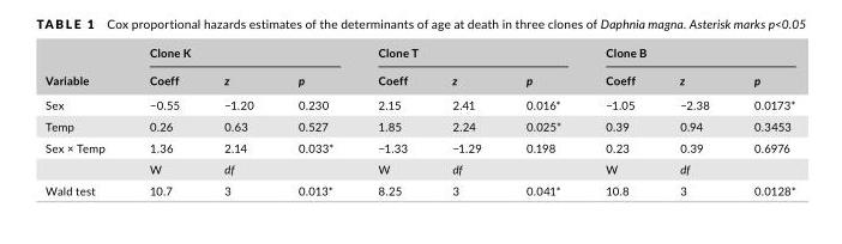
<table><thead><tr><td rowspan="2">Variable</td><td colspan="3">Clone K</td><td colspan="3">Clone T</td><td colspan="3">Clone B</td></tr><tr><td>Coeff</td><td>z</td><td>p</td><td>Coeff</td><td>z</td><td>p</td><td>Coeff</td><td>z</td><td>p</td></tr></thead><tbody><tr><td>Sex</td><td>−0.55</td><td>−1.20</td><td>0.230</td><td>2.15</td><td>2.41</td><td>0.016*</td><td>−1.05</td><td>−2.38</td><td>0.0173*</td></tr><tr><td>Temp</td><td>0.26</td><td>0.63</td><td>0.527</td><td>1.85</td><td>2.24</td><td>0.025*</td><td>0.39</td><td>0.94</td><td>0.3453</td></tr><tr><td rowspan="2">Sex × Temp</td><td>1.36</td><td>2.14</td><td>0.033*</td><td>−1.33</td><td>−1.29</td><td>0.198</td><td>0.23</td><td>0.39</td><td>0.6976</td></tr><tr><td>W</td><td>df</td><td></td><td>W</td><td>df</td><td></td><td>W</td><td>df</td><td></td></tr><tr><td>Wald test</td><td>10.7</td><td>3</td><td>0.013*</td><td>8.25</td><td>3</td><td>0.041*</td><td>10.8</td><td>3</td><td>0.0128*</td></tr></tbody></table>